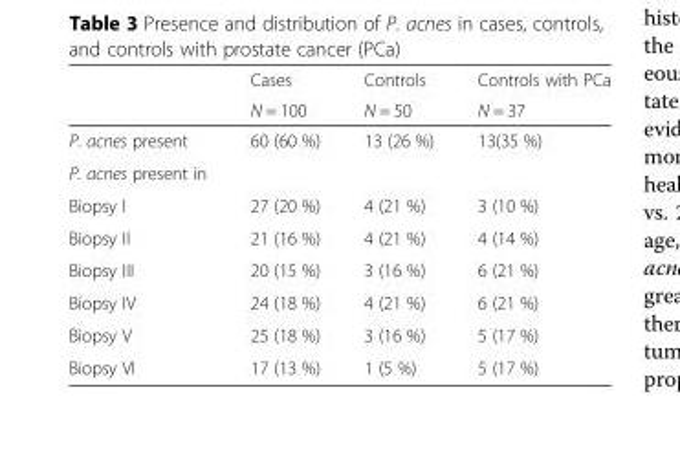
<table><thead><tr><td rowspan="2"></td><td rowspan="2">Cases N = 100</td><td rowspan="2">Controls N = 50</td><td rowspan="2">Controls with PCa N = 37</td></tr><tr></tr></thead><tbody><tr><td>P. acnes present</td><td>60 (60 %)</td><td>13 (26 %)</td><td>13(35 %)</td></tr><tr><td colspan="4">P. acnes present in</td></tr><tr><td>Biopsy I</td><td>27 (20 %)</td><td>4 (21 %)</td><td>3 (10 %)</td></tr><tr><td>Biopsy II</td><td>21 (16 %)</td><td>4 (21 %)</td><td>4 (14 %)</td></tr><tr><td>Biopsy III</td><td>20 (15 %)</td><td>3 (16 %)</td><td>6 (21 %)</td></tr><tr><td>Biopsy IV</td><td>24 (18 %)</td><td>4 (21 %)</td><td>6 (21 %)</td></tr><tr><td>Biopsy V</td><td>25 (18 %)</td><td>3 (16 %)</td><td>5 (17 %)</td></tr><tr><td>Biopsy VI</td><td>17 (13 %)</td><td>1 (5 %)</td><td>5 (17 %)</td></tr></tbody></table>